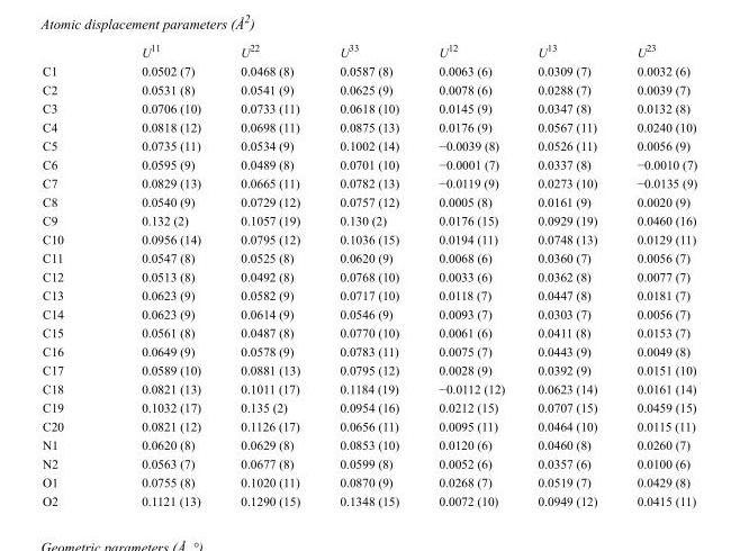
<table><thead><tr><td></td><td>U<sup>11</sup></td><td>U<sup>22</sup></td><td>U<sup>33</sup></td><td>U<sup>12</sup></td><td>U<sup>13</sup></td><td>U<sup>23</sup></td></tr></thead><tbody><tr><td>C1</td><td>0.0502 (7)</td><td>0.0468 (8)</td><td>0.0587 (8)</td><td>0.0063 (6)</td><td>0.0309 (7)</td><td>0.0032 (6)</td></tr><tr><td>C2</td><td>0.0531 (8)</td><td>0.0541 (9)</td><td>0.0625 (9)</td><td>0.0078 (6)</td><td>0.0288 (7)</td><td>0.0039 (7)</td></tr><tr><td>C3</td><td>0.0706 (10)</td><td>0.0733 (11)</td><td>0.0618 (10)</td><td>0.0145 (9)</td><td>0.0347 (8)</td><td>0.0132 (8)</td></tr><tr><td>C4</td><td>0.0818 (12)</td><td>0.0698 (11)</td><td>0.0875 (13)</td><td>0.0176 (9)</td><td>0.0567 (11)</td><td>0.0240 (10)</td></tr><tr><td>C5</td><td>0.0735 (11)</td><td>0.0534 (9)</td><td>0.1002 (14)</td><td>−0.0039 (8)</td><td>0.0526 (11)</td><td>0.0056 (9)</td></tr><tr><td>C6</td><td>0.0595 (9)</td><td>0.0489 (8)</td><td>0.0701 (10)</td><td>−0.0001 (7)</td><td>0.0337 (8)</td><td>−0.0010 (7)</td></tr><tr><td>C7</td><td>0.0829 (13)</td><td>0.0665 (11)</td><td>0.0782 (13)</td><td>−0.0119 (9)</td><td>0.0273 (10)</td><td>−0.0135 (9)</td></tr><tr><td>C8</td><td>0.0540 (9)</td><td>0.0729 (12)</td><td>0.0757 (12)</td><td>0.0005 (8)</td><td>0.0161 (9)</td><td>0.0020 (9)</td></tr><tr><td>C9</td><td>0.132 (2)</td><td>0.1057 (19)</td><td>0.130 (2)</td><td>0.0176 (15)</td><td>0.0929 (19)</td><td>0.0460 (16)</td></tr><tr><td>C10</td><td>0.0956 (14)</td><td>0.0795 (12)</td><td>0.1036 (15)</td><td>0.0194 (11)</td><td>0.0748 (13)</td><td>0.0129 (11)</td></tr><tr><td>C11</td><td>0.0547 (8)</td><td>0.0525 (8)</td><td>0.0620 (9)</td><td>0.0068 (6)</td><td>0.0360 (7)</td><td>0.0056 (7)</td></tr><tr><td>C12</td><td>0.0513 (8)</td><td>0.0492 (8)</td><td>0.0768 (10)</td><td>0.0033 (6)</td><td>0.0362 (8)</td><td>0.0077 (7)</td></tr><tr><td>C13</td><td>0.0623 (9)</td><td>0.0582 (9)</td><td>0.0717 (10)</td><td>0.0118 (7)</td><td>0.0447 (8)</td><td>0.0181 (7)</td></tr><tr><td>C14</td><td>0.0623 (9)</td><td>0.0614 (9)</td><td>0.0546 (9)</td><td>0.0093 (7)</td><td>0.0303 (7)</td><td>0.0056 (7)</td></tr><tr><td>C15</td><td>0.0561 (8)</td><td>0.0487 (8)</td><td>0.0770 (10)</td><td>0.0061 (6)</td><td>0.0411 (8)</td><td>0.0153 (7)</td></tr><tr><td>C16</td><td>0.0649 (9)</td><td>0.0578 (9)</td><td>0.0783 (11)</td><td>0.0075 (7)</td><td>0.0443 (9)</td><td>0.0049 (8)</td></tr><tr><td>C17</td><td>0.0589 (10)</td><td>0.0881 (13)</td><td>0.0795 (12)</td><td>0.0028 (9)</td><td>0.0392 (9)</td><td>0.0151 (10)</td></tr><tr><td>C18</td><td>0.0821 (13)</td><td>0.1011 (17)</td><td>0.1184 (19)</td><td>−0.0112 (12)</td><td>0.0623 (14)</td><td>0.0161 (14)</td></tr><tr><td>C19</td><td>0.1032 (17)</td><td>0.135 (2)</td><td>0.0954 (16)</td><td>0.0212 (15)</td><td>0.0707 (15)</td><td>0.0459 (15)</td></tr><tr><td>C20</td><td>0.0821 (12)</td><td>0.1126 (17)</td><td>0.0656 (11)</td><td>0.0095 (11)</td><td>0.0464 (10)</td><td>0.0115 (11)</td></tr><tr><td>N1</td><td>0.0620 (8)</td><td>0.0629 (8)</td><td>0.0853 (10)</td><td>0.0120 (6)</td><td>0.0460 (8)</td><td>0.0260 (7)</td></tr><tr><td>N2</td><td>0.0563 (7)</td><td>0.0677 (8)</td><td>0.0599 (8)</td><td>0.0052 (6)</td><td>0.0357 (6)</td><td>0.0100 (6)</td></tr><tr><td>O1</td><td>0.0755 (8)</td><td>0.1020 (11)</td><td>0.0870 (9)</td><td>0.0268 (7)</td><td>0.0519 (7)</td><td>0.0429 (8)</td></tr><tr><td>O2</td><td>0.1121 (13)</td><td>0.1290 (15)</td><td>0.1348 (15)</td><td>0.0072 (10)</td><td>0.0949 (12)</td><td>0.0415 (11)</td></tr></tbody></table>